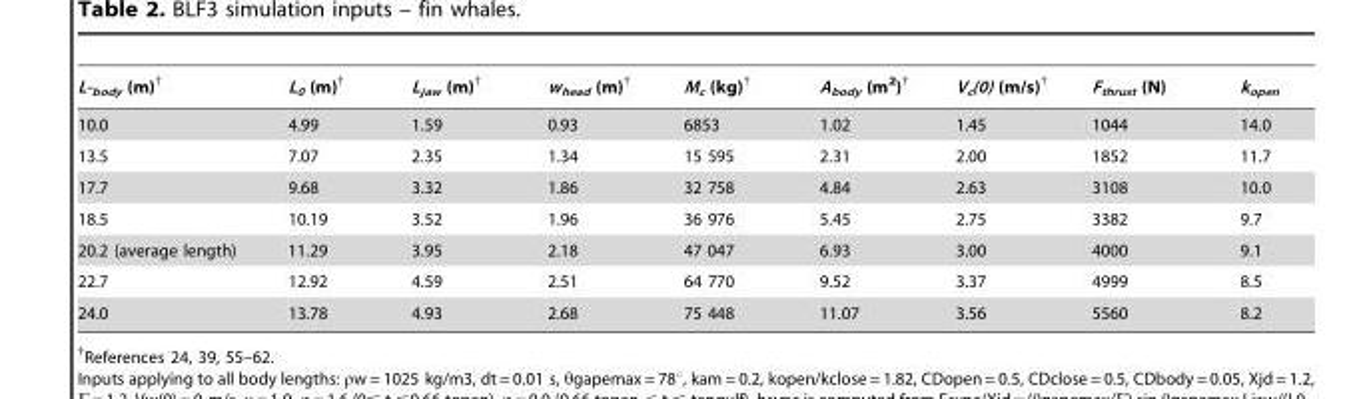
<table><thead><tr><td>L-body (m){</td><td>L<sub>0</sub> (m)†</td><td>L<sub>jaw</sub> (m)†</td><td>w<sub>head</sub> (m)†</td><td>M<sub>c</sub> (kg)†</td><td>A<sub>body</sub> (m<sup>2</sup>)†</td><td>V<sub>c</sub>(0) (m/s)†</td><td>F<sub>thrust</sub> (N)</td><td>k<sub>open</sub></td></tr></thead><tbody><tr><td>10.0</td><td>4.99</td><td>1.59</td><td>0.93</td><td>6853</td><td>1.02</td><td>1.45</td><td>1044</td><td>14.0</td></tr><tr><td>13.5</td><td>7.07</td><td>2.35</td><td>1.34</td><td>15 595</td><td>2.31</td><td>2.00</td><td>1852</td><td>11.7</td></tr><tr><td>17.7</td><td>9.68</td><td>3.32</td><td>1.86</td><td>32 758</td><td>4.84</td><td>2.63</td><td>3108</td><td>10.0</td></tr><tr><td>18.5</td><td>10.19</td><td>3.52</td><td>1.96</td><td>36 976</td><td>5.45</td><td>2.75</td><td>3382</td><td>9.7</td></tr><tr><td>20.2 (average length)</td><td>11.29</td><td>3.95</td><td>2.18</td><td>47 047</td><td>6.93</td><td>3.00</td><td>4000</td><td>9.1</td></tr><tr><td>22.7</td><td>12.92</td><td>4.59</td><td>2.51</td><td>64 770</td><td>9.52</td><td>3.37</td><td>4999</td><td>8.5</td></tr><tr><td>24.0</td><td>13.78</td><td>4.93</td><td>2.68</td><td>75 448</td><td>11.07</td><td>3.56</td><td>5560</td><td>8.2</td></tr></tbody></table>